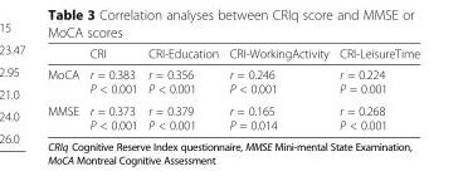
<table><thead><tr><td></td><td>CRI</td><td>CRI-Education</td><td>CRI-WorkingActivity</td><td>CRI-LeisureTime</td></tr></thead><tbody><tr><td>MoCA</td><td>r = 0.383 P &lt; 0.001</td><td>r = 0.356 P &lt; 0.001</td><td>r = 0.246 P &lt; 0.001</td><td>r = 0.224 P = 0.001</td></tr><tr><td>MMSE</td><td>r = 0.373 P &lt; 0.001</td><td>r = 0.379 P &lt; 0.001</td><td>r = 0.165 P = 0.014</td><td>r = 0.268 P &lt; 0.001</td></tr></tbody></table>